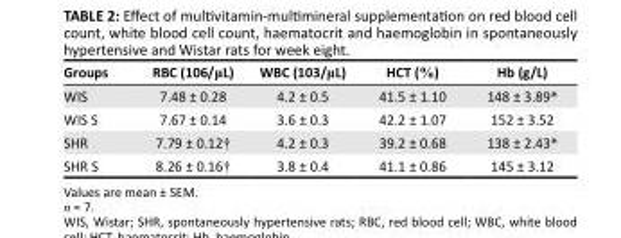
<table><thead><tr><td>Groups</td><td>RBC (106/μL)</td><td>WBC (103/μL)</td><td>HCT (%)</td><td>Hb (g/L)</td></tr></thead><tbody><tr><td>WIS</td><td>7.48 ± 0.28</td><td>4.2 ± 0.5</td><td>41.5 ± 1.10</td><td>148 ± 3.89*</td></tr><tr><td>WIS S</td><td>7.67 ± 0.14</td><td>3.6 ± 0.3</td><td>42.2 ± 1.07</td><td>152 ± 3.52</td></tr><tr><td>SHR</td><td>7.79 ± 0.12†</td><td>4.2 ± 0.3</td><td>39.2 ± 0.68</td><td>138 ± 2.43*</td></tr><tr><td>SHR S</td><td>8.26 ± 0.16†</td><td>3.8 ± 0.4</td><td>41.1 ± 0.86</td><td>145 ± 3.12</td></tr></tbody></table>